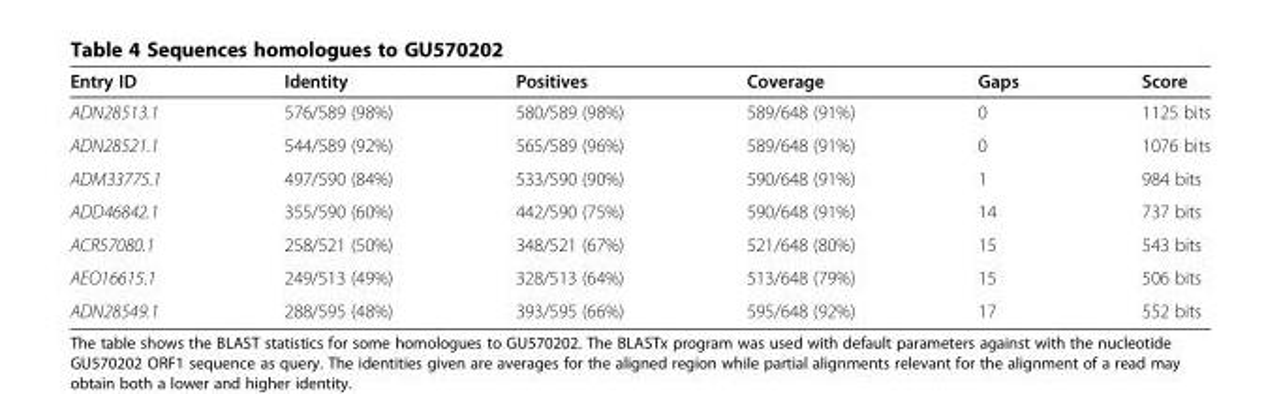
<table><thead><tr><td>Entry ID</td><td>Identity</td><td>Positives</td><td>Coverage</td><td>Gaps</td><td>Score</td></tr></thead><tbody><tr><td>ADN28513.1</td><td>576/589 (98%)</td><td>580/589 (98%)</td><td>589/648 (91%)</td><td>0</td><td>1125 bits</td></tr><tr><td>ADN28521.1</td><td>544/589 (92%)</td><td>565/589 (96%)</td><td>589/648 (91%)</td><td>0</td><td>1076 bits</td></tr><tr><td>ADM33775.1</td><td>497/590 (84%)</td><td>533/590 (90%)</td><td>590/648 (91%)</td><td>1</td><td>984 bits</td></tr><tr><td>ADD46842.1</td><td>355/590 (60%)</td><td>442/590 (75%)</td><td>590/648 (91%)</td><td>14</td><td>737 bits</td></tr><tr><td>ACR57080.1</td><td>258/521 (50%)</td><td>348/521 (67%)</td><td>521/648 (80%)</td><td>15</td><td>543 bits</td></tr><tr><td>AEO16615.1</td><td>249/513 (49%)</td><td>328/513 (64%)</td><td>513/648 (79%)</td><td>15</td><td>506 bits</td></tr><tr><td>ADN28549.1</td><td>288/595 (48%)</td><td>393/595 (66%)</td><td>595/648 (92%)</td><td>17</td><td>552 bits</td></tr></tbody></table>